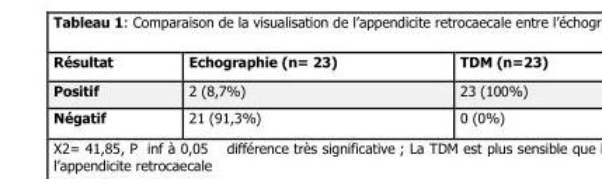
<table><thead><tr><td>Résultat</td><td>Echographie (n= 23)</td><td>TDM (n=23)</td></tr></thead><tbody><tr><td>Positif</td><td>2 (8,7%)</td><td>23 (100%)</td></tr><tr><td>Négatif</td><td>21 (91,3%)</td><td>0 (0%)</td></tr></tbody></table>